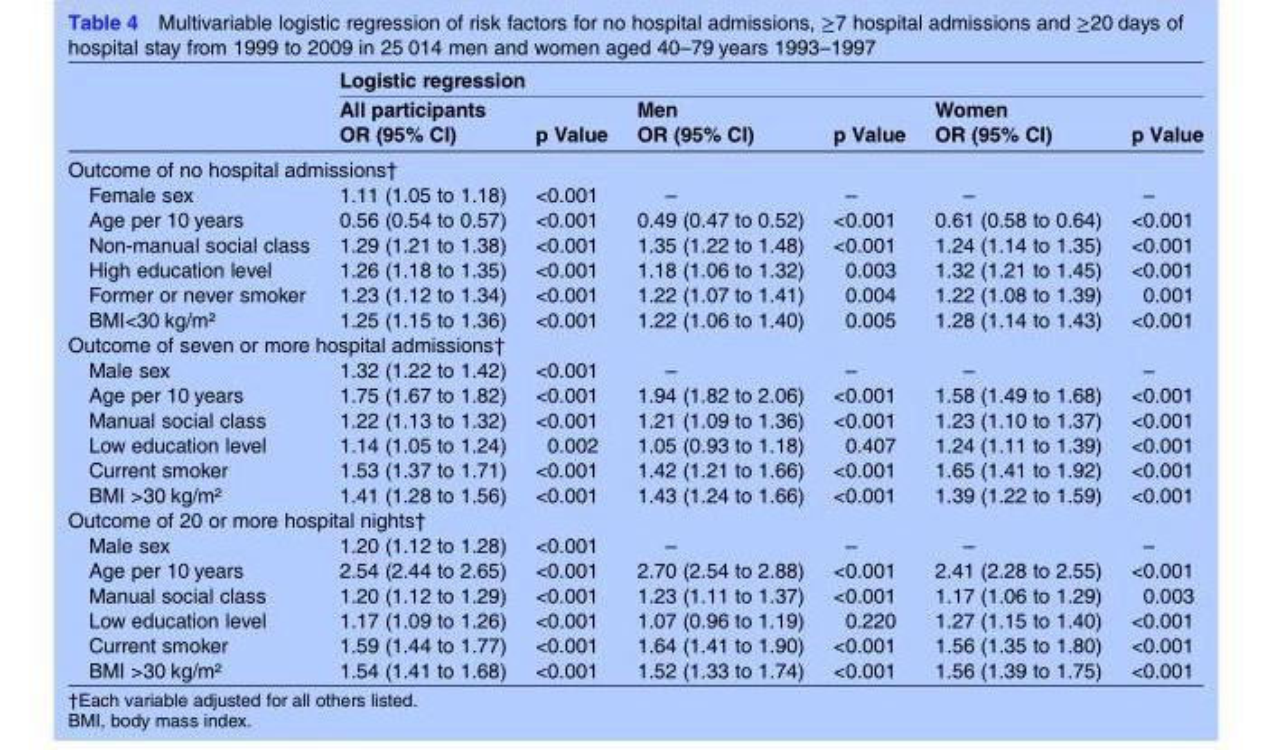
<table><thead><tr><td rowspan="2"></td><td colspan="6">Logistic regression</td></tr><tr><td>All participants OR (95% CI)</td><td>p Value</td><td>Men OR (95% CI)</td><td>p Value</td><td>Women OR (95% CI)</td><td>p Value</td></tr></thead><tbody><tr><td colspan="7">Outcome of no hospital admissions†</td></tr><tr><td>Female sex</td><td>1.11 (1.05 to 1.18)</td><td>&lt;0.001</td><td>–</td><td>–</td><td>–</td><td>–</td></tr><tr><td>Age per 10 years</td><td>0.56 (0.54 to 0.57)</td><td>&lt;0.001</td><td>0.49 (0.47 to 0.52)</td><td>&lt;0.001</td><td>0.61 (0.58 to 0.64)</td><td>&lt;0.001</td></tr><tr><td>Non-manual social class</td><td>1.29 (1.21 to 1.38)</td><td>&lt;0.001</td><td>1.35 (1.22 to 1.48)</td><td>&lt;0.001</td><td>1.24 (1.14 to 1.35)</td><td>&lt;0.001</td></tr><tr><td>High education level</td><td>1.26 (1.18 to 1.35)</td><td>&lt;0.001</td><td>1.18 (1.06 to 1.32)</td><td>0.003</td><td>1.32 (1.21 to 1.45)</td><td>&lt;0.001</td></tr><tr><td>Former or never smoker</td><td>1.23 (1.12 to 1.34)</td><td>&lt;0.001</td><td>1.22 (1.07 to 1.41)</td><td>0.004</td><td>1.22 (1.08 to 1.39)</td><td>0.001</td></tr><tr><td>BMI&lt;30 kg/m²</td><td>1.25 (1.15 to 1.36)</td><td>&lt;0.001</td><td>1.22 (1.06 to 1.40)</td><td>0.005</td><td>1.28 (1.14 to 1.43)</td><td>&lt;0.001</td></tr><tr><td colspan="7">Outcome of seven or more hospital admissions†</td></tr><tr><td>Male sex</td><td>1.32 (1.22 to 1.42)</td><td>&lt;0.001</td><td>–</td><td>–</td><td>–</td><td>–</td></tr><tr><td>Age per 10 years</td><td>1.75 (1.67 to 1.82)</td><td>&lt;0.001</td><td>1.94 (1.82 to 2.06)</td><td>&lt;0.001</td><td>1.58 (1.49 to 1.68)</td><td>&lt;0.001</td></tr><tr><td>Manual social class</td><td>1.22 (1.13 to 1.32)</td><td>&lt;0.001</td><td>1.21 (1.09 to 1.36)</td><td>&lt;0.001</td><td>1.23 (1.10 to 1.37)</td><td>&lt;0.001</td></tr><tr><td>Low education level</td><td>1.14 (1.05 to 1.24)</td><td>0.002</td><td>1.05 (0.93 to 1.18)</td><td>0.407</td><td>1.24 (1.11 to 1.39)</td><td>&lt;0.001</td></tr><tr><td>Current smoker</td><td>1.53 (1.37 to 1.71)</td><td>&lt;0.001</td><td>1.42 (1.21 to 1.66)</td><td>&lt;0.001</td><td>1.65 (1.41 to 1.92)</td><td>&lt;0.001</td></tr><tr><td>BMI &gt;30 kg/m²</td><td>1.41 (1.28 to 1.56)</td><td>&lt;0.001</td><td>1.43 (1.24 to 1.66)</td><td>&lt;0.001</td><td>1.39 (1.22 to 1.59)</td><td>&lt;0.001</td></tr><tr><td colspan="7">Outcome of 20 or more hospital nights†</td></tr><tr><td>Male sex</td><td>1.20 (1.12 to 1.28)</td><td>&lt;0.001</td><td>–</td><td>–</td><td>–</td><td>–</td></tr><tr><td>Age per 10 years</td><td>2.54 (2.44 to 2.65)</td><td>&lt;0.001</td><td>2.70 (2.54 to 2.88)</td><td>&lt;0.001</td><td>2.41 (2.28 to 2.55)</td><td>&lt;0.001</td></tr><tr><td>Manual social class</td><td>1.20 (1.12 to 1.29)</td><td>&lt;0.001</td><td>1.23 (1.11 to 1.37)</td><td>&lt;0.001</td><td>1.17 (1.06 to 1.29)</td><td>0.003</td></tr><tr><td>Low education level</td><td>1.17 (1.09 to 1.26)</td><td>&lt;0.001</td><td>1.07 (0.96 to 1.19)</td><td>0.220</td><td>1.27 (1.15 to 1.40)</td><td>&lt;0.001</td></tr><tr><td>Current smoker</td><td>1.59 (1.44 to 1.77)</td><td>&lt;0.001</td><td>1.64 (1.41 to 1.90)</td><td>&lt;0.001</td><td>1.56 (1.35 to 1.80)</td><td>&lt;0.001</td></tr><tr><td>BMI &gt;30 kg/m²</td><td>1.54 (1.41 to 1.68)</td><td>&lt;0.001</td><td>1.52 (1.33 to 1.74)</td><td>&lt;0.001</td><td>1.56 (1.39 to 1.75)</td><td>&lt;0.001</td></tr></tbody></table>